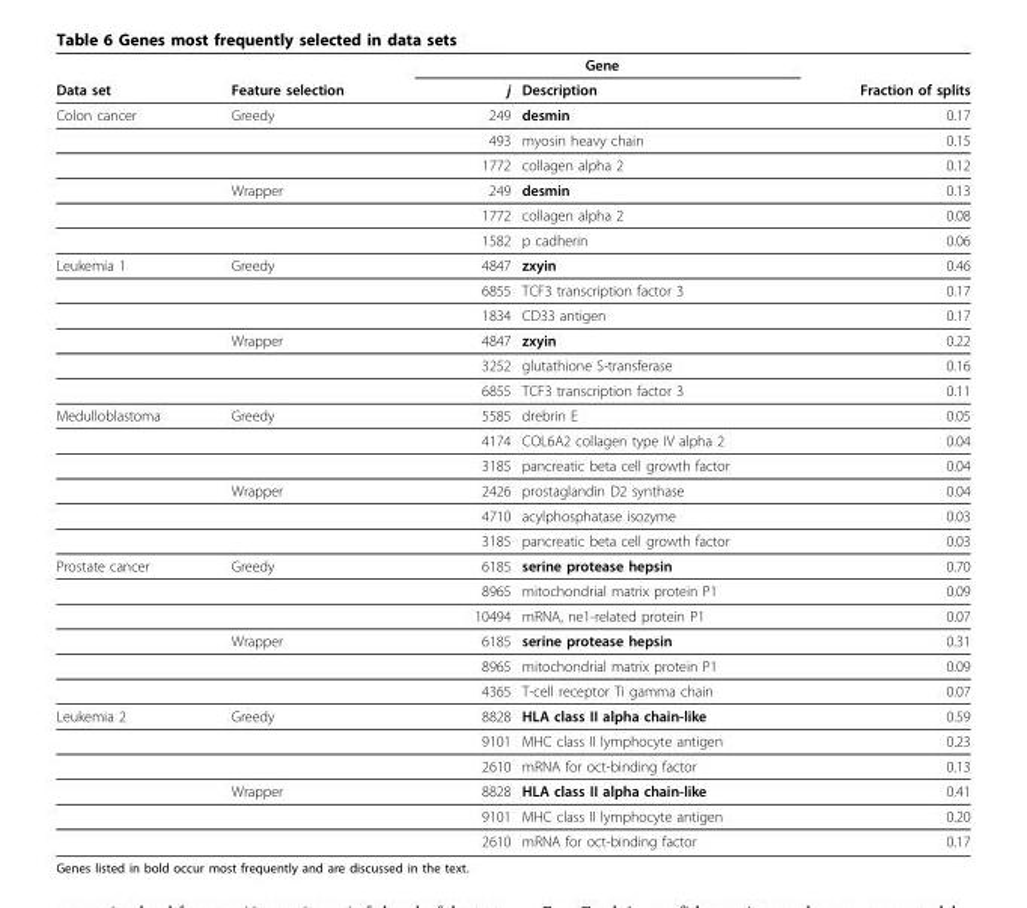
<table><thead><tr><td rowspan="2">Data set</td><td rowspan="2">Feature selection</td><td colspan="2">Gene</td><td rowspan="2">Fraction of splits</td></tr><tr><td>j</td><td>Description</td></tr></thead><tbody><tr><td rowspan="6">Colon cancer</td><td>Greedy</td><td>249</td><td>desmin</td><td>0.17</td></tr><tr><td></td><td>493</td><td>myosin heavy chain</td><td>0.15</td></tr><tr><td></td><td>1772</td><td>collagen alpha 2</td><td>0.12</td></tr><tr><td>Wrapper</td><td>249</td><td>desmin</td><td>0.13</td></tr><tr><td></td><td>1772</td><td>collagen alpha 2</td><td>0.08</td></tr><tr><td></td><td>1582</td><td>p cadherin</td><td>0.06</td></tr><tr><td rowspan="6">Leukemia 1</td><td>Greedy</td><td>4847</td><td>zxyin</td><td>0.46</td></tr><tr><td></td><td>6855</td><td>TCF3 transcription factor 3</td><td>0.17</td></tr><tr><td></td><td>1834</td><td>CD33 antigen</td><td>0.17</td></tr><tr><td>Wrapper</td><td>4847</td><td>zxyin</td><td>0.22</td></tr><tr><td></td><td>3252</td><td>glutathione S-transferase</td><td>0.16</td></tr><tr><td></td><td>6855</td><td>TCF3 transcription factor 3</td><td>0.11</td></tr><tr><td rowspan="6">Medulloblastoma</td><td>Greedy</td><td>5585</td><td>drebrin E</td><td>0.05</td></tr><tr><td></td><td>4174</td><td>COL6A2 collagen type IV alpha 2</td><td>0.04</td></tr><tr><td></td><td>3185</td><td>pancreatic beta cell growth factor</td><td>0.04</td></tr><tr><td>Wrapper</td><td>2426</td><td>prostaglandin D2 synthase</td><td>0.04</td></tr><tr><td></td><td>4710</td><td>acylphosphatase isozyme</td><td>0.03</td></tr><tr><td></td><td>3185</td><td>pancreatic beta cell growth factor</td><td>0.03</td></tr><tr><td rowspan="6">Prostate cancer</td><td>Greedy</td><td>6185</td><td>serine protease hepsin</td><td>0.70</td></tr><tr><td></td><td>8965</td><td>mitochondrial matrix protein P1</td><td>0.09</td></tr><tr><td></td><td>10494</td><td>mRNA, ne1-related protein P1</td><td>0.07</td></tr><tr><td>Wrapper</td><td>6185</td><td>serine protease hepsin</td><td>0.31</td></tr><tr><td></td><td>8965</td><td>mitochondrial matrix protein P1</td><td>0.09</td></tr><tr><td></td><td>4365</td><td>T-cell receptor Ti gamma chain</td><td>0.07</td></tr><tr><td rowspan="6">Leukemia 2</td><td>Greedy</td><td>8828</td><td>HLA class II alpha chain-like</td><td>0.59</td></tr><tr><td></td><td>9101</td><td>MHC class II lymphocyte antigen</td><td>0.23</td></tr><tr><td></td><td>2610</td><td>mRNA for oct-binding factor</td><td>0.13</td></tr><tr><td>Wrapper</td><td>8828</td><td>HLA class II alpha chain-like</td><td>0.41</td></tr><tr><td></td><td>9101</td><td>MHC class II lymphocyte antigen</td><td>0.20</td></tr><tr><td></td><td>2610</td><td>mRNA for oct-binding factor</td><td>0.17</td></tr></tbody></table>